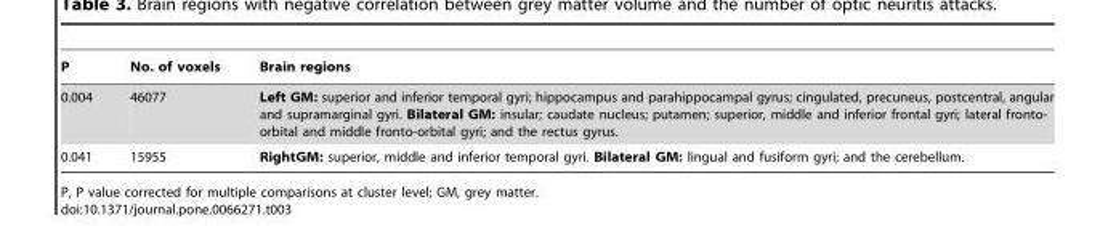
<table><thead><tr><td>P</td><td>No. of voxels</td><td>Brain regions</td></tr></thead><tbody><tr><td>0.004</td><td>46077</td><td>Left GM: superior and inferior temporal gyri; hippocampus and parahippocampal gyrus; cingulated, precuneus, postcentral, angular and supramarginal gyri. Bilateral GM: insular; caudate nucleus; putamen; superior, middle and inferior frontal gyri; lateral fronto- orbital and middle fronto-orbital gyri; and the rectus gyrus.</td></tr><tr><td>0.041</td><td>15955</td><td>RightGM: superior, middle and inferior temporal gyri. Bilateral GM: lingual and fusiform gyri; and the cerebellum.</td></tr></tbody></table>